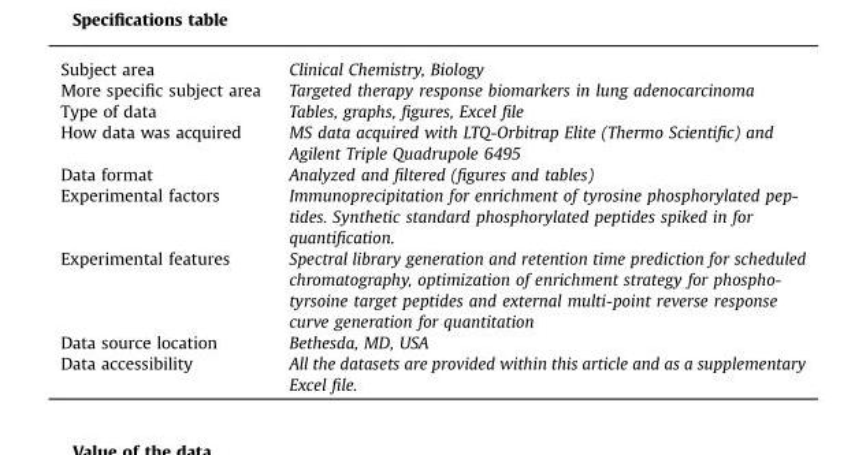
<table><tbody><tr><td>Subject area</td><td>Clinical Chemistry, Biology</td></tr><tr><td>More specific subject area</td><td>Targeted therapy response biomarkers in lung adenocarcinoma</td></tr><tr><td>Type of data</td><td>Tables, graphs, figures, Excel file</td></tr><tr><td>How data was acquired</td><td>MS data acquired with LTQ-Orbitrap Elite (Thermo Scientific) and Agilent Triple Quadrupole 6495</td></tr><tr><td>Data format</td><td>Analyzed and filtered (figures and tables)</td></tr><tr><td>Experimental factors</td><td>Immunoprecipitation for enrichment of tyrosine phosphorylated pep- tides. Synthetic standard phosphorylated peptides spiked in for quantification.</td></tr><tr><td>Experimental features</td><td>Spectral library generation and retention time prediction for scheduled chromatography, optimization of enrichment strategy for phospho- tyrsoine target peptides and external multi-point reverse response curve generation for quantitation</td></tr><tr><td>Data source location</td><td>Bethesda, MD, USA</td></tr><tr><td>Data accessibility</td><td>All the datasets are provided within this article and as a supplementary Excel file.</td></tr></tbody></table>